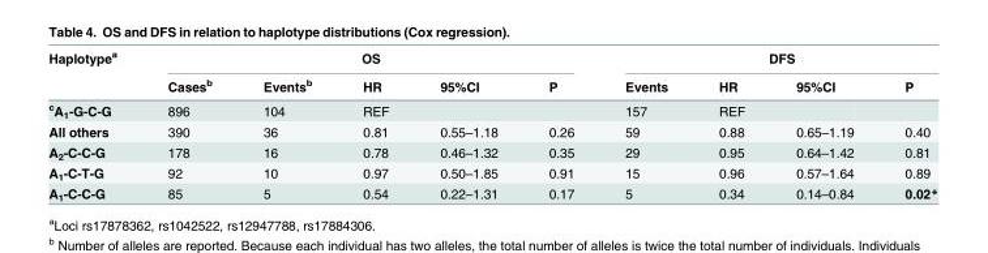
<table><thead><tr><td rowspan="2">Haplotype<sup>a</sup></td><td colspan="5">OS</td><td colspan="4">DFS</td></tr><tr><td>Cases<sup>b</sup></td><td>Events<sup>b</sup></td><td>HR</td><td>95%CI</td><td>P</td><td>Events</td><td>HR</td><td>95%CI</td><td>P</td></tr></thead><tbody><tr><td><sup>c</sup>A<sub>1</sub>-G-C-G</td><td>896</td><td>104</td><td>REF</td><td></td><td></td><td>157</td><td>REF</td><td></td><td></td></tr><tr><td>All others</td><td>390</td><td>36</td><td>0.81</td><td>0.55–1.18</td><td>0.26</td><td>59</td><td>0.88</td><td>0.65–1.19</td><td>0.40</td></tr><tr><td>A<sub>2</sub>-C-C-G</td><td>178</td><td>16</td><td>0.78</td><td>0.46–1.32</td><td>0.35</td><td>29</td><td>0.95</td><td>0.64–1.42</td><td>0.81</td></tr><tr><td>A<sub>1</sub>-C-T-G</td><td>92</td><td>10</td><td>0.97</td><td>0.50–1.85</td><td>0.91</td><td>15</td><td>0.96</td><td>0.57–1.64</td><td>0.89</td></tr><tr><td>A<sub>1</sub>-C-C-G</td><td>85</td><td>5</td><td>0.54</td><td>0.22–1.31</td><td>0.17</td><td>5</td><td>0.34</td><td>0.14–0.84</td><td>0.02*</td></tr></tbody></table>